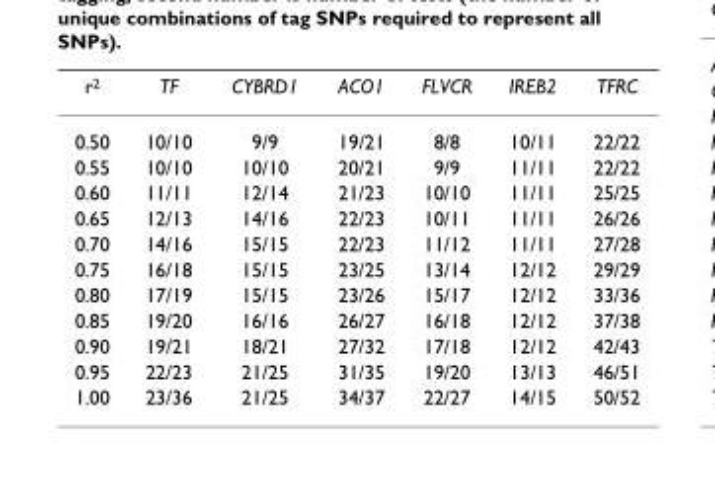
<table><thead><tr><td>r<sup>2</sup></td><td>TF</td><td>CYBRD1</td><td>ACO1</td><td>FLVCR</td><td>IREB2</td><td>TFRC</td></tr></thead><tbody><tr><td>0.50</td><td>10/10</td><td>9/9</td><td>19/21</td><td>8/8</td><td>10/11</td><td>22/22</td></tr><tr><td>0.55</td><td>10/10</td><td>10/10</td><td>20/21</td><td>9/9</td><td>11/11</td><td>22/22</td></tr><tr><td>0.60</td><td>11/11</td><td>12/14</td><td>21/23</td><td>10/10</td><td>11/11</td><td>25/25</td></tr><tr><td>0.65</td><td>12/13</td><td>14/16</td><td>22/23</td><td>10/11</td><td>11/11</td><td>26/26</td></tr><tr><td>0.70</td><td>14/16</td><td>15/15</td><td>22/23</td><td>11/12</td><td>11/11</td><td>27/28</td></tr><tr><td>0.75</td><td>16/18</td><td>15/15</td><td>23/25</td><td>13/14</td><td>12/12</td><td>29/29</td></tr><tr><td>0.80</td><td>17/19</td><td>15/15</td><td>23/26</td><td>15/17</td><td>12/12</td><td>33/36</td></tr><tr><td>0.85</td><td>19/20</td><td>16/16</td><td>26/27</td><td>16/18</td><td>12/12</td><td>37/38</td></tr><tr><td>0.90</td><td>19/21</td><td>18/21</td><td>27/32</td><td>17/18</td><td>12/12</td><td>42/43</td></tr><tr><td>0.95</td><td>22/23</td><td>21/25</td><td>31/35</td><td>19/20</td><td>13/13</td><td>46/51</td></tr><tr><td>1.00</td><td>23/36</td><td>21/25</td><td>34/37</td><td>22/27</td><td>14/15</td><td>50/52</td></tr></tbody></table>